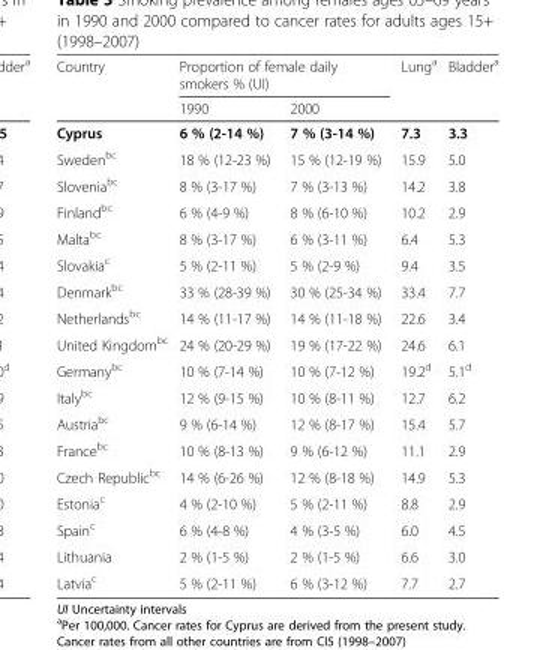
<table><thead><tr><td rowspan="2">Country</td><td colspan="2">Proportion of female daily smokers % (UI)</td><td rowspan="2">Lung<sup>a</sup></td><td rowspan="2">Bladder<sup>a</sup></td></tr><tr><td>1990</td><td>2000</td></tr></thead><tbody><tr><td>Cyprus</td><td>6 % (2-14 %)</td><td>7 % (3-14 %)</td><td>7.3</td><td>3.3</td></tr><tr><td>Sweden<sup>bc</sup></td><td>18 % (12-23 %)</td><td>15 % (12-19 %)</td><td>15.9</td><td>5.0</td></tr><tr><td>Slovenia<sup>bc</sup></td><td>8 % (3-17 %)</td><td>7 % (3-13 %)</td><td>14.2</td><td>3.8</td></tr><tr><td>Finland<sup>bc</sup></td><td>6 % (4-9 %)</td><td>8 % (6-10 %)</td><td>10.2</td><td>2.9</td></tr><tr><td>Malta<sup>bc</sup></td><td>8 % (3-17 %)</td><td>6 % (3-11 %)</td><td>6.4</td><td>5.3</td></tr><tr><td>Slovakia<sup>c</sup></td><td>5 % (2-11 %)</td><td>5 % (2-9 %)</td><td>9.4</td><td>3.5</td></tr><tr><td>Denmark<sup>bc</sup></td><td>33 % (28-39 %)</td><td>30 % (25-34 %)</td><td>33.4</td><td>7.7</td></tr><tr><td>Netherlands<sup>bc</sup></td><td>14 % (11-17 %)</td><td>14 % (11-18 %)</td><td>22.6</td><td>3.4</td></tr><tr><td>United Kingdom<sup>bc</sup></td><td>24 % (20-29 %)</td><td>19 % (17-22 %)</td><td>24.6</td><td>6.1</td></tr><tr><td>Germany<sup>bc</sup></td><td>10 % (7-14 %)</td><td>10 % (7-12 %)</td><td>19.2<sup>d</sup></td><td>5.1<sup>d</sup></td></tr><tr><td>Italy<sup>bc</sup></td><td>12 % (9-15 %)</td><td>10 % (8-11 %)</td><td>12.7</td><td>6.2</td></tr><tr><td>Austria<sup>bc</sup></td><td>9 % (6-14 %)</td><td>12 % (8-17 %)</td><td>15.4</td><td>5.7</td></tr><tr><td>France<sup>bc</sup></td><td>10 % (8-13 %)</td><td>9 % (6-12 %)</td><td>11.1</td><td>2.9</td></tr><tr><td>Czech Republic<sup>bc</sup></td><td>14 % (6-26 %)</td><td>12 % (8-18 %)</td><td>14.9</td><td>5.3</td></tr><tr><td>Estonia<sup>c</sup></td><td>4 % (2-10 %)</td><td>5 % (2-11 %)</td><td>8.8</td><td>2.9</td></tr><tr><td>Spain<sup>c</sup></td><td>6 % (4-8 %)</td><td>4 % (3-5 %)</td><td>6.0</td><td>4.5</td></tr><tr><td>Lithuania</td><td>2 % (1-5 %)</td><td>2 % (1-5 %)</td><td>6.6</td><td>3.0</td></tr><tr><td>Latvia<sup>c</sup></td><td>5 % (2-11 %)</td><td>6 % (3-12 %)</td><td>7.7</td><td>2.7</td></tr></tbody></table>